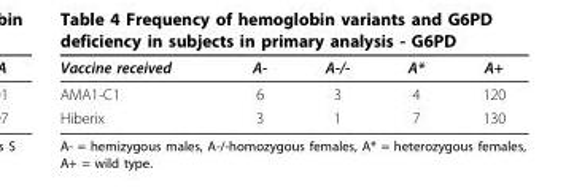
<table><thead><tr><td>Vaccine received</td><td>A-</td><td>A-/-</td><td>A*</td><td>A+</td></tr></thead><tbody><tr><td>AMA1-C1</td><td>6</td><td>3</td><td>4</td><td>120</td></tr><tr><td>Hiberix</td><td>3</td><td>1</td><td>7</td><td>130</td></tr></tbody></table>